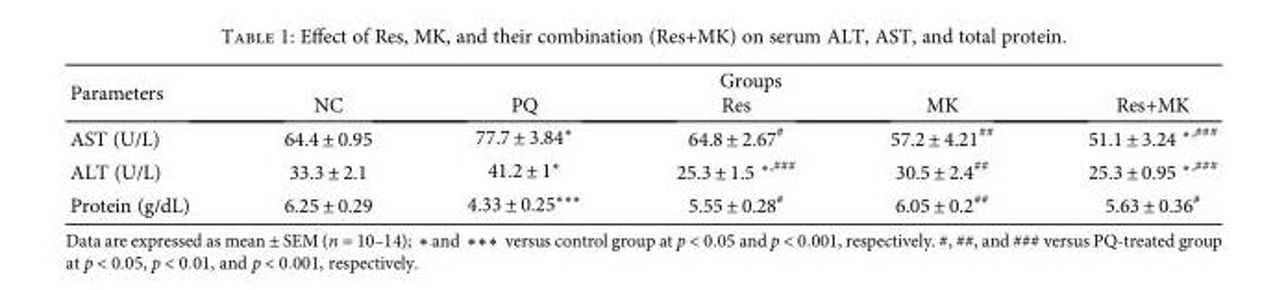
<table><thead><tr><td rowspan="2">Parameters</td><td colspan="5">Groups</td></tr><tr><td>NC</td><td>PQ</td><td>Res</td><td>MK</td><td>Res+MK</td></tr></thead><tbody><tr><td>AST (U/L)</td><td>64.4 ± 0.95</td><td>77.7 ± 3.84∗</td><td>64.8 ± 2.67<sup>#</sup></td><td>57.2 ± 4.21<sup>##</sup></td><td>51.1 ± 3.24 <sup>∗,###</sup></td></tr><tr><td>ALT (U/L)</td><td>33.3 ± 2.1</td><td>41.2 ± 1∗</td><td>25.3 ± 1.5 <sup>∗,###</sup></td><td>30.5 ± 2.4<sup>##</sup></td><td>25.3 ± 0.95 <sup>∗,###</sup></td></tr><tr><td>Protein (g/dL)</td><td>6.25 ± 0.29</td><td>4.33 ± 0.25∗∗∗</td><td>5.55 ± 0.28<sup>#</sup></td><td>6.05 ± 0.2<sup>##</sup></td><td>5.63 ± 0.36<sup>#</sup></td></tr></tbody></table>